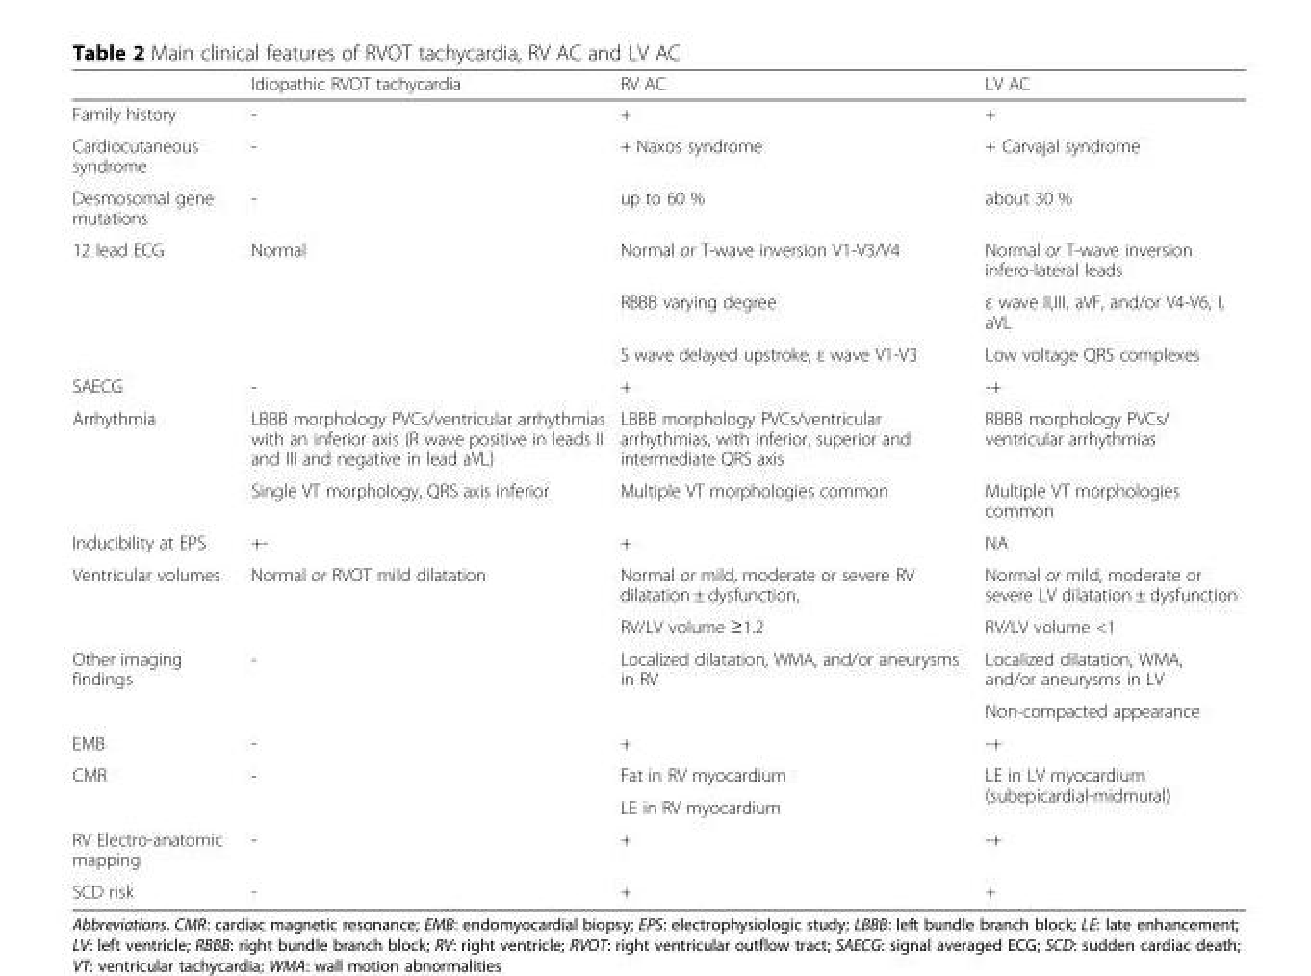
<table><thead><tr><td></td><td>Idiopathic RVOT tachycardia</td><td>RV AC</td><td>LV AC</td></tr></thead><tbody><tr><td>Family history</td><td>-</td><td>+</td><td>+</td></tr><tr><td>Cardiocutaneous syndrome</td><td>-</td><td>+ Naxos syndrome</td><td>+ Carvajal syndrome</td></tr><tr><td>Desmosomal gene mutations</td><td>-</td><td>up to 60 %</td><td>about 30 %</td></tr><tr><td rowspan="3">12 lead ECG</td><td rowspan="3">Normal</td><td>Normal or T-wave inversion V1-V3/V4</td><td>Normal or T-wave inversion infero-lateral leads</td></tr><tr><td>RBBB varying degree</td><td>ε wave II,III, aVF, and/or V4-V6, I, aVL</td></tr><tr><td>S wave delayed upstroke, ε wave V1-V3</td><td>Low voltage QRS complexes</td></tr><tr><td>SAECG</td><td>-</td><td>+</td><td>-+</td></tr><tr><td rowspan="2">Arrhythmia</td><td>LBBB morphology PVCs/ventricular arrhythmias with an inferior axis (R wave positive in leads II and III and negative in lead aVL)</td><td>LBBB morphology PVCs/ventricular arrhythmias, with inferior, superior and intermediate QRS axis</td><td>RBBB morphology PVCs/ ventricular arrhythmias</td></tr><tr><td>Single VT morphology, QRS axis inferior</td><td>Multiple VT morphologies common</td><td>Multiple VT morphologies common</td></tr><tr><td>Inducibility at EPS</td><td>+-</td><td>+</td><td>NA</td></tr><tr><td rowspan="2">Ventricular volumes</td><td>Normal or RVOT mild dilatation</td><td>Normal or mild, moderate or severe RV dilatation ± dysfunction,</td><td>Normal or mild, moderate or severe LV dilatation ± dysfunction</td></tr><tr><td></td><td>RV/LV volume ≥1.2</td><td>RV/LV volume &lt;1</td></tr><tr><td rowspan="2">Other imaging findings</td><td>-</td><td>Localized dilatation, WMA, and/or aneurysms in RV</td><td>Localized dilatation, WMA, and/or aneurysms in LV</td></tr><tr><td></td><td></td><td>Non-compacted appearance</td></tr><tr><td>EMB</td><td>-</td><td>+</td><td>-+</td></tr><tr><td rowspan="2">CMR</td><td rowspan="2">-</td><td>Fat in RV myocardium</td><td rowspan="2">LE in LV myocardium (subepicardial-midmural)</td></tr><tr><td>LE in RV myocardium</td></tr><tr><td>RV Electro-anatomic mapping</td><td>-</td><td>+</td><td>-+</td></tr><tr><td>SCD risk</td><td>-</td><td>+</td><td>+</td></tr></tbody></table>